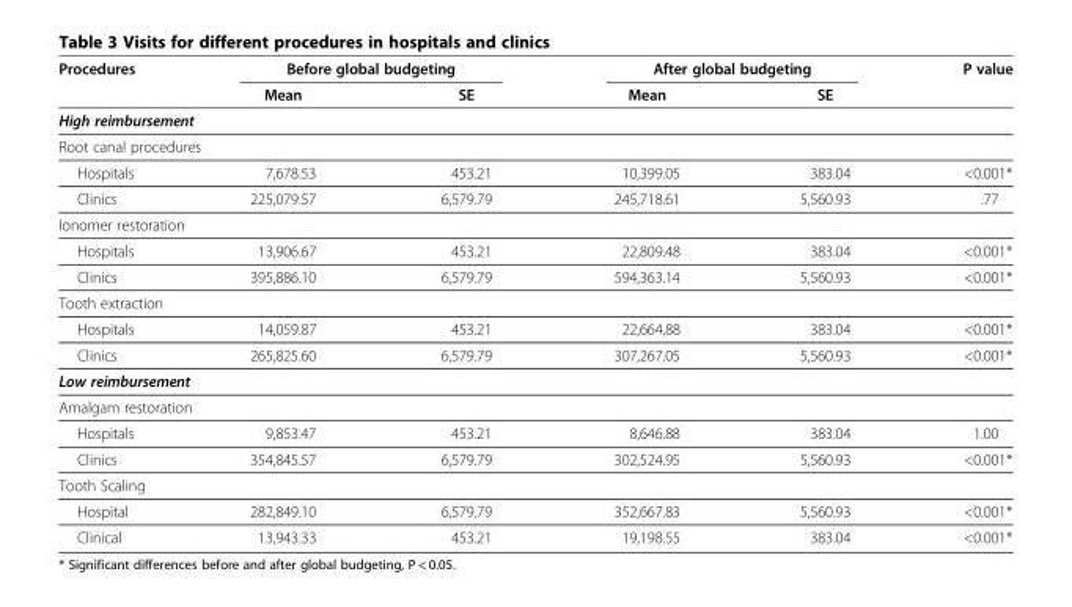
<table><thead><tr><td rowspan="2">Procedures</td><td colspan="2">Before global budgeting</td><td colspan="2">After global budgeting</td><td rowspan="2">P value</td></tr><tr><td>Mean</td><td>SE</td><td>Mean</td><td>SE</td></tr></thead><tbody><tr><td colspan="6">High reimbursement</td></tr><tr><td colspan="6">Root canal procedures</td></tr><tr><td>Hospitals</td><td>7,678.53</td><td>453.21</td><td>10,399.05</td><td>383.04</td><td>&lt;0.001*</td></tr><tr><td>Clinics</td><td>225,079.57</td><td>6,579.79</td><td>245,718.61</td><td>5,560.93</td><td>.77</td></tr><tr><td colspan="6">Ionomer restoration</td></tr><tr><td>Hospitals</td><td>13,906.67</td><td>453.21</td><td>22,809.48</td><td>383.04</td><td>&lt;0.001*</td></tr><tr><td>Clinics</td><td>395,886.10</td><td>6,579.79</td><td>594,363.14</td><td>5,560.93</td><td>&lt;0.001*</td></tr><tr><td colspan="6">Tooth extraction</td></tr><tr><td>Hospitals</td><td>14,059.87</td><td>453.21</td><td>22,664.88</td><td>383.04</td><td>&lt;0.001*</td></tr><tr><td>Clinics</td><td>265,825.60</td><td>6,579.79</td><td>307,267.05</td><td>5,560.93</td><td>&lt;0.001*</td></tr><tr><td colspan="6">Low reimbursement</td></tr><tr><td colspan="6">Amalgam restoration</td></tr><tr><td>Hospitals</td><td>9,853.47</td><td>453.21</td><td>8,646.88</td><td>383.04</td><td>1.00</td></tr><tr><td>Clinics</td><td>354,845.57</td><td>6,579.79</td><td>302,524.95</td><td>5,560.93</td><td>&lt;0.001*</td></tr><tr><td colspan="6">Tooth Scaling</td></tr><tr><td>Hospital</td><td>282,849.10</td><td>6,579.79</td><td>352,667.83</td><td>5,560.93</td><td>&lt;0.001*</td></tr><tr><td>Clinical</td><td>13,943.33</td><td>453.21</td><td>19,198.55</td><td>383.04</td><td>&lt;0.001*</td></tr></tbody></table>